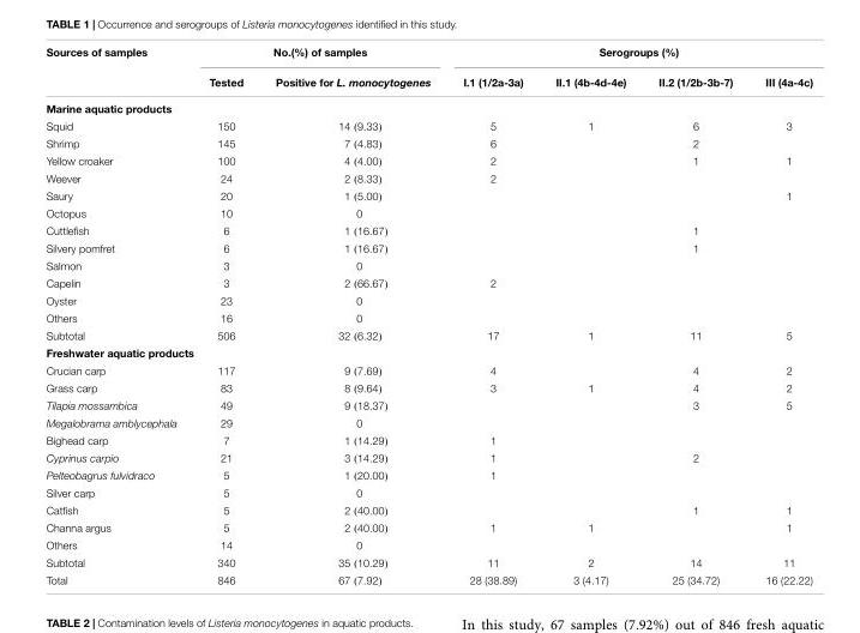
<table><thead><tr><td rowspan="2">Sources of samples</td><td colspan="2">No.(%) of samples</td><td colspan="4">Serogroups (%)</td></tr><tr><td>Tested</td><td>Positive for L. monocytogenes</td><td>I.1 (1/2a-3a)</td><td>II.1 (4b-4d-4e)</td><td>II.2 (1/2b-3b-7)</td><td>III (4a-4c)</td></tr></thead><tbody><tr><td colspan="7">Marine aquatic products</td></tr><tr><td>Squid</td><td>150</td><td>14 (9.33)</td><td>5</td><td>1</td><td>6</td><td>3</td></tr><tr><td>Shrimp</td><td>145</td><td>7 (4.83)</td><td>6</td><td></td><td>2</td><td></td></tr><tr><td>Yellow croaker</td><td>100</td><td>4 (4.00)</td><td>2</td><td></td><td>1</td><td>1</td></tr><tr><td>Weever</td><td>24</td><td>2 (8.33)</td><td>2</td><td></td><td></td><td></td></tr><tr><td>Saury</td><td>20</td><td>1 (5.00)</td><td></td><td></td><td></td><td>1</td></tr><tr><td>Octopus</td><td>10</td><td>0</td><td></td><td></td><td></td><td></td></tr><tr><td>Cuttlefish</td><td>6</td><td>1 (16.67)</td><td></td><td></td><td>1</td><td></td></tr><tr><td>Silvery pomfret</td><td>6</td><td>1 (16.67)</td><td></td><td></td><td>1</td><td></td></tr><tr><td>Salmon</td><td>3</td><td>0</td><td></td><td></td><td></td><td></td></tr><tr><td>Capelin</td><td>3</td><td>2 (66.67)</td><td>2</td><td></td><td></td><td></td></tr><tr><td>Oyster</td><td>23</td><td>0</td><td></td><td></td><td></td><td></td></tr><tr><td>Others</td><td>16</td><td>0</td><td></td><td></td><td></td><td></td></tr><tr><td>Subtotal</td><td>506</td><td>32 (6.32)</td><td>17</td><td>1</td><td>11</td><td>5</td></tr><tr><td colspan="7">Freshwater aquatic products</td></tr><tr><td>Crucian carp</td><td>117</td><td>9 (7.69)</td><td>4</td><td></td><td>4</td><td>2</td></tr><tr><td>Grass carp</td><td>83</td><td>8 (9.64)</td><td>3</td><td>1</td><td>4</td><td>2</td></tr><tr><td>Tilapia mossambica</td><td>49</td><td>9 (18.37)</td><td></td><td></td><td>3</td><td>5</td></tr><tr><td>Megalobrama amblycephala</td><td>29</td><td>0</td><td></td><td></td><td></td><td></td></tr><tr><td>Bighead carp</td><td>7</td><td>1 (14.29)</td><td>1</td><td></td><td></td><td></td></tr><tr><td>Cyprinus carpio</td><td>21</td><td>3 (14.29)</td><td>1</td><td></td><td>2</td><td></td></tr><tr><td>Pelteobagrus fulvidraco</td><td>5</td><td>1 (20.00)</td><td>1</td><td></td><td></td><td></td></tr><tr><td>Silver carp</td><td>5</td><td>0</td><td></td><td></td><td></td><td></td></tr><tr><td>Catfish</td><td>5</td><td>2 (40.00)</td><td></td><td></td><td>1</td><td>1</td></tr><tr><td>Channa argus</td><td>5</td><td>2 (40.00)</td><td>1</td><td>1</td><td></td><td>1</td></tr><tr><td>Others</td><td>14</td><td>0</td><td></td><td></td><td></td><td></td></tr><tr><td>Subtotal</td><td>340</td><td>35 (10.29)</td><td>11</td><td>2</td><td>14</td><td>11</td></tr><tr><td>Total</td><td>846</td><td>67 (7.92)</td><td>28 (38.89)</td><td>3 (4.17)</td><td>25 (34.72)</td><td>16 (22.22)</td></tr></tbody></table>